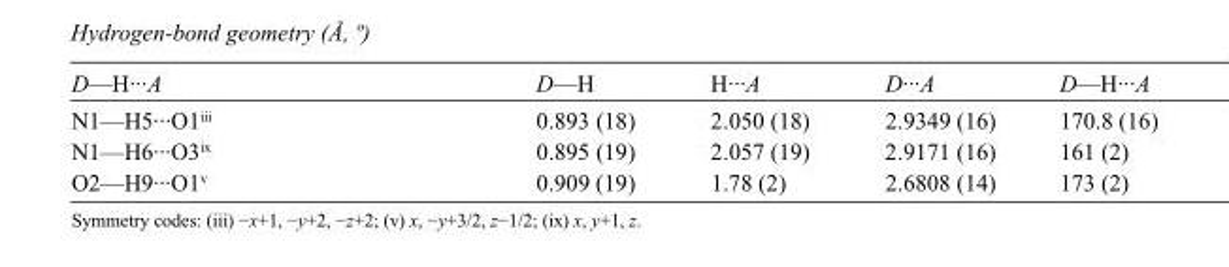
<table><tbody><tr><td>D—H···A</td><td>D—H</td><td>H···A</td><td>D···A</td><td>D—H···A</td></tr><tr><td>N1—H5···O1<sup>iii</sup></td><td>0.893 (18)</td><td>2.050 (18)</td><td>2.9349 (16)</td><td>170.8 (16)</td></tr><tr><td>N1—H6···O3<sup>ix</sup></td><td>0.895 (19)</td><td>2.057 (19)</td><td>2.9171 (16)</td><td>161 (2)</td></tr><tr><td>O2—H9···O1<sup>v</sup></td><td>0.909 (19)</td><td>1.78 (2)</td><td>2.6808 (14)</td><td>173 (2)</td></tr></tbody></table>